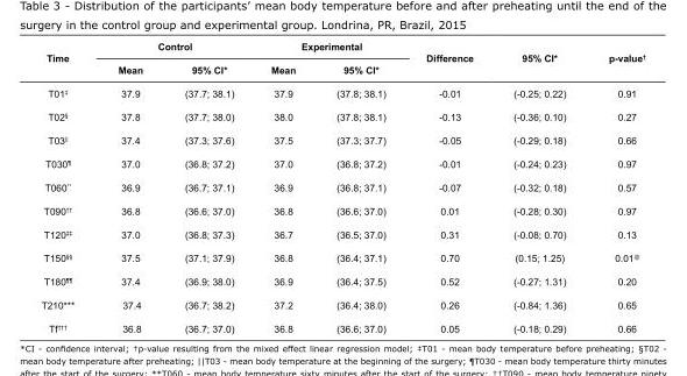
<table><tbody><tr><td rowspan="2">Time</td><td colspan="2">Control</td><td colspan="2">Experimental</td><td>Difference</td><td>95% CI*</td><td>p-value<sup>†</sup></td></tr><tr><td>Mean</td><td>95% CI*</td><td>Mean</td><td>95% CI*</td><td></td><td></td><td></td></tr><tr><td>T01<sup>‡</sup></td><td>37.9</td><td>(37.7; 38.1)</td><td>37.9</td><td>(37.8; 38.1)</td><td>-0.01</td><td>(-0.25; 0.22)</td><td>0.91</td></tr><tr><td>T02<sup>§</sup></td><td>37.8</td><td>(37.7; 38.0)</td><td>38.0</td><td>(37.8; 38.1)</td><td>-0.13</td><td>(-0.36; 0.10)</td><td>0.27</td></tr><tr><td>T03<sup>||</sup></td><td>37.4</td><td>(37.3; 37.6)</td><td>37.5</td><td>(37.3; 37.7)</td><td>-0.05</td><td>(-0.29; 0.18)</td><td>0.66</td></tr><tr><td>T030<sup>¶</sup></td><td>37.0</td><td>(36.8; 37.2)</td><td>37.0</td><td>(36.8; 37.2)</td><td>-0.01</td><td>(-0.24; 0.23)</td><td>0.97</td></tr><tr><td>T060**</td><td>36.9</td><td>(36.7; 37.1)</td><td>36.9</td><td>(36.8; 37.1)</td><td>-0.07</td><td>(-0.32; 0.18)</td><td>0.57</td></tr><tr><td>T090<sup>††</sup></td><td>36.8</td><td>(36.6; 37.0)</td><td>36.8</td><td>(36.6; 37.0)</td><td>0.01</td><td>(-0.28; 0.30)</td><td>0.97</td></tr><tr><td>T120<sup>‡‡</sup></td><td>37.0</td><td>(36.8; 37.3)</td><td>36.7</td><td>(36.5; 37.0)</td><td>0.31</td><td>(-0.08; 0.70)</td><td>0.13</td></tr><tr><td>T150<sup>§§</sup></td><td>37.5</td><td>(37.1; 37.9)</td><td>36.8</td><td>(36.4; 37.1)</td><td>0.70</td><td>(0.15; 1.25)</td><td>0.01<sup>||||</sup></td></tr><tr><td>T180<sup>¶¶</sup></td><td>37.4</td><td>(36.9; 38.0)</td><td>36.9</td><td>(36.4; 37.5)</td><td>0.52</td><td>(-0.27; 1.31)</td><td>0.20</td></tr><tr><td>T210***</td><td>37.4</td><td>(36.7; 38.2)</td><td>37.2</td><td>(36.4; 38.0)</td><td>0.26</td><td>(-0.84; 1.36)</td><td>0.65</td></tr><tr><td>Tf<sup>†††</sup></td><td>36.8</td><td>(36.7; 37.0)</td><td>36.8</td><td>(36.6; 37.0)</td><td>0.05</td><td>(-0.18; 0.29)</td><td>0.66</td></tr></tbody></table>